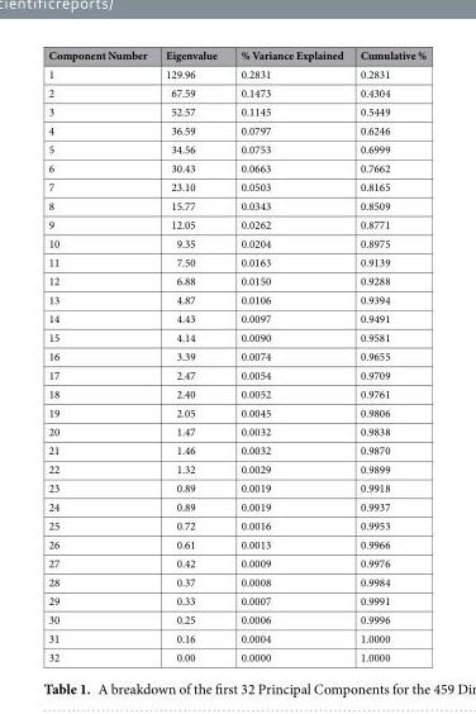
<table><thead><tr><td>Component Number</td><td>Eigenvalue</td><td>% Variance Explained</td><td>Cumulative %</td></tr></thead><tbody><tr><td>1</td><td>129.96</td><td>0.2831</td><td>0.2831</td></tr><tr><td>2</td><td>67.59</td><td>0.1473</td><td>0.4304</td></tr><tr><td>3</td><td>52.57</td><td>0.1145</td><td>0.5449</td></tr><tr><td>4</td><td>36.59</td><td>0.0797</td><td>0.6246</td></tr><tr><td>5</td><td>34.56</td><td>0.0753</td><td>0.6999</td></tr><tr><td>6</td><td>30.43</td><td>0.0663</td><td>0.7662</td></tr><tr><td>7</td><td>23.10</td><td>0.0503</td><td>0.8165</td></tr><tr><td>8</td><td>15.77</td><td>0.0343</td><td>0.8509</td></tr><tr><td>9</td><td>12.05</td><td>0.0262</td><td>0.8771</td></tr><tr><td>10</td><td>9.35</td><td>0.0204</td><td>0.8975</td></tr><tr><td>11</td><td>7.50</td><td>0.0163</td><td>0.9139</td></tr><tr><td>12</td><td>6.88</td><td>0.0150</td><td>0.9288</td></tr><tr><td>13</td><td>4.87</td><td>0.0106</td><td>0.9394</td></tr><tr><td>14</td><td>4.43</td><td>0.0097</td><td>0.9491</td></tr><tr><td>15</td><td>4.14</td><td>0.0090</td><td>0.9581</td></tr><tr><td>16</td><td>3.39</td><td>0.0074</td><td>0.9655</td></tr><tr><td>17</td><td>2.47</td><td>0.0054</td><td>0.9709</td></tr><tr><td>18</td><td>2.40</td><td>0.0052</td><td>0.9761</td></tr><tr><td>19</td><td>2.05</td><td>0.0045</td><td>0.9806</td></tr><tr><td>20</td><td>1.47</td><td>0.0032</td><td>0.9838</td></tr><tr><td>21</td><td>1.46</td><td>0.0032</td><td>0.9870</td></tr><tr><td>22</td><td>1.32</td><td>0.0029</td><td>0.9899</td></tr><tr><td>23</td><td>0.89</td><td>0.0019</td><td>0.9918</td></tr><tr><td>24</td><td>0.89</td><td>0.0019</td><td>0.9937</td></tr><tr><td>25</td><td>0.72</td><td>0.0016</td><td>0.9953</td></tr><tr><td>26</td><td>0.61</td><td>0.0013</td><td>0.9966</td></tr><tr><td>27</td><td>0.42</td><td>0.0009</td><td>0.9976</td></tr><tr><td>28</td><td>0.37</td><td>0.0008</td><td>0.9984</td></tr><tr><td>29</td><td>0.33</td><td>0.0007</td><td>0.9991</td></tr><tr><td>30</td><td>0.25</td><td>0.0006</td><td>0.9996</td></tr><tr><td>31</td><td>0.16</td><td>0.0004</td><td>1.0000</td></tr><tr><td>32</td><td>0.00</td><td>0.0000</td><td>1.0000</td></tr></tbody></table>